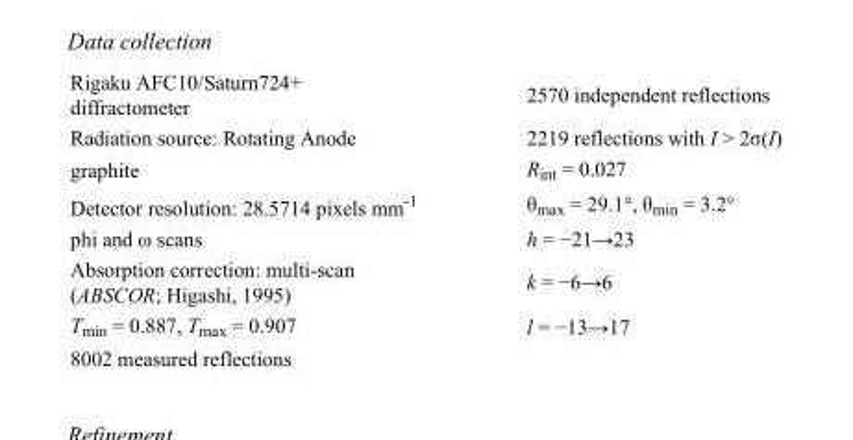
<table><tbody><tr><td>Rigaku AFC10/Saturn724+ diffractometer</td><td>2570 independent reflections</td></tr><tr><td>Radiation source: Rotating Anode</td><td>2219 reflections with I &gt; 2σ(I)</td></tr><tr><td>graphite</td><td>R<sub>int</sub> = 0.027</td></tr><tr><td>Detector resolution: 28.5714 pixels mm<sup>-1</sup></td><td>θ<sub>max</sub> = 29.1°, θ<sub>min</sub> = 3.2°</td></tr><tr><td>phi and ω scans</td><td>h = −21→23</td></tr><tr><td>Absorption correction: multi-scan (ABSCOR; Higashi, 1995)</td><td>k = −6→6</td></tr><tr><td>T<sub>min</sub> = 0.887, T<sub>max</sub> = 0.907</td><td>l = −13→17</td></tr><tr><td>8002 measured reflections</td><td></td></tr></tbody></table>